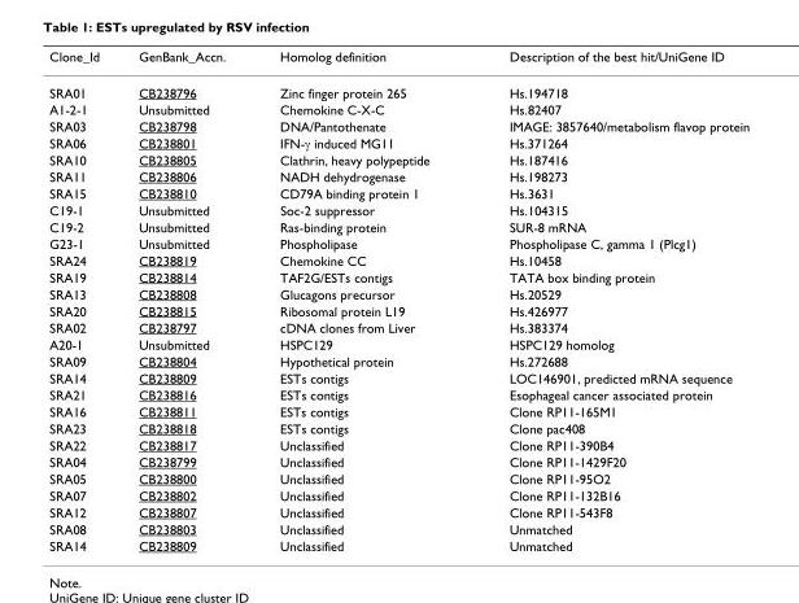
<table><thead><tr><td>Clone_Id</td><td>GenBank_Accn.</td><td>Homolog definition</td><td>Description of the best hit/UniGene ID</td></tr></thead><tbody><tr><td>SRA01</td><td>CB238796</td><td>Zinc finger protein 265</td><td>Hs.194718</td></tr><tr><td>A1-2-1</td><td>Unsubmitted</td><td>Chemokine C-X-C</td><td>Hs.82407</td></tr><tr><td>SRA03</td><td>CB238798</td><td>DNA/Pantothenate</td><td>IMAGE: 3857640/metabolism flavop protein</td></tr><tr><td>SRA06</td><td>CB238801</td><td>IFN-γ induced MG11</td><td>Hs.371264</td></tr><tr><td>SRA10</td><td>CB238805</td><td>Clathrin, heavy polypeptide</td><td>Hs.187416</td></tr><tr><td>SRA11</td><td>CB238806</td><td>NADH dehydrogenase</td><td>Hs.198273</td></tr><tr><td>SRA15</td><td>CB238810</td><td>CD79A binding protein 1</td><td>Hs.3631</td></tr><tr><td>C19-1</td><td>Unsubmitted</td><td>Soc-2 suppressor</td><td>Hs.104315</td></tr><tr><td>C19-2</td><td>Unsubmitted</td><td>Ras-binding protein</td><td>SUR-8 mRNA</td></tr><tr><td>G23-1</td><td>Unsubmitted</td><td>Phospholipase</td><td>Phospholipase C, gamma 1 (Plcg1)</td></tr><tr><td>SRA24</td><td>CB238819</td><td>Chemokine CC</td><td>Hs.10458</td></tr><tr><td>SRA19</td><td>CB238814</td><td>TAF2G/ESTs contigs</td><td>TATA box binding protein</td></tr><tr><td>SRA13</td><td>CB238808</td><td>Glucagons precursor</td><td>Hs.20529</td></tr><tr><td>SRA20</td><td>CB238815</td><td>Ribosomal protein L19</td><td>Hs.426977</td></tr><tr><td>SRA02</td><td>CB238797</td><td>cDNA clones from Liver</td><td>Hs.383374</td></tr><tr><td>A20-1</td><td>Unsubmitted</td><td>HSPC129</td><td>HSPC129 homolog</td></tr><tr><td>SRA09</td><td>CB238804</td><td>Hypothetical protein</td><td>Hs.272688</td></tr><tr><td>SRA14</td><td>CB238809</td><td>ESTs contigs</td><td>LOC146901, predicted mRNA sequence</td></tr><tr><td>SRA21</td><td>CB238816</td><td>ESTs contigs</td><td>Esophageal cancer associated protein</td></tr><tr><td>SRA16</td><td>CB238811</td><td>ESTs contigs</td><td>Clone RP11-165M1</td></tr><tr><td>SRA23</td><td>CB238818</td><td>ESTs contigs</td><td>Clone pac408</td></tr><tr><td>SRA22</td><td>CB238817</td><td>Unclassified</td><td>Clone RP11-390B4</td></tr><tr><td>SRA04</td><td>CB238799</td><td>Unclassified</td><td>Clone RP11-1429F20</td></tr><tr><td>SRA05</td><td>CB238800</td><td>Unclassified</td><td>Clone RP11-95O2</td></tr><tr><td>SRA07</td><td>CB238802</td><td>Unclassified</td><td>Clone RP11-132B16</td></tr><tr><td>SRA12</td><td>CB238807</td><td>Unclassified</td><td>Clone RP11-543F8</td></tr><tr><td>SRA08</td><td>CB238803</td><td>Unclassified</td><td>Unmatched</td></tr><tr><td>SRA14</td><td>CB238809</td><td>Unclassified</td><td>Unmatched</td></tr></tbody></table>